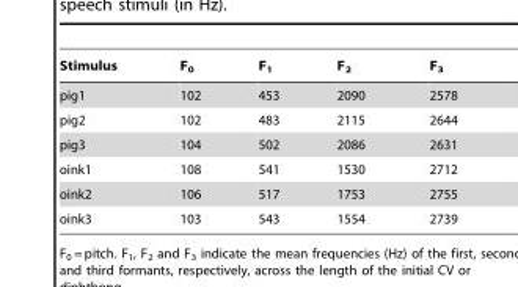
<table><thead><tr><td>Stimulus</td><td>F<sub>0</sub></td><td>F<sub>1</sub></td><td>F<sub>2</sub></td><td>F<sub>3</sub></td></tr></thead><tbody><tr><td>pig1</td><td>102</td><td>453</td><td>2090</td><td>2578</td></tr><tr><td>pig2</td><td>102</td><td>483</td><td>2115</td><td>2644</td></tr><tr><td>pig3</td><td>104</td><td>502</td><td>2086</td><td>2631</td></tr><tr><td>oink1</td><td>108</td><td>541</td><td>1530</td><td>2712</td></tr><tr><td>oink2</td><td>106</td><td>517</td><td>1753</td><td>2755</td></tr><tr><td>oink3</td><td>103</td><td>543</td><td>1554</td><td>2739</td></tr></tbody></table>